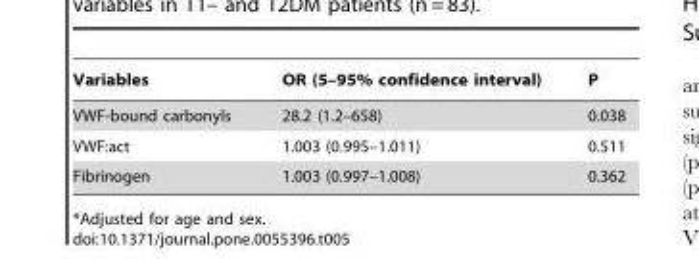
<table><thead><tr><td>Variables</td><td>OR (5–95% confidence interval)</td><td>P</td></tr></thead><tbody><tr><td>VWF-bound carbonyls</td><td>28.2 (1.2–658)</td><td>0.038</td></tr><tr><td>VWF:act</td><td>1.003 (0.995–1.011)</td><td>0.511</td></tr><tr><td>Fibrinogen</td><td>1.003 (0.997–1.008)</td><td>0.362</td></tr></tbody></table>